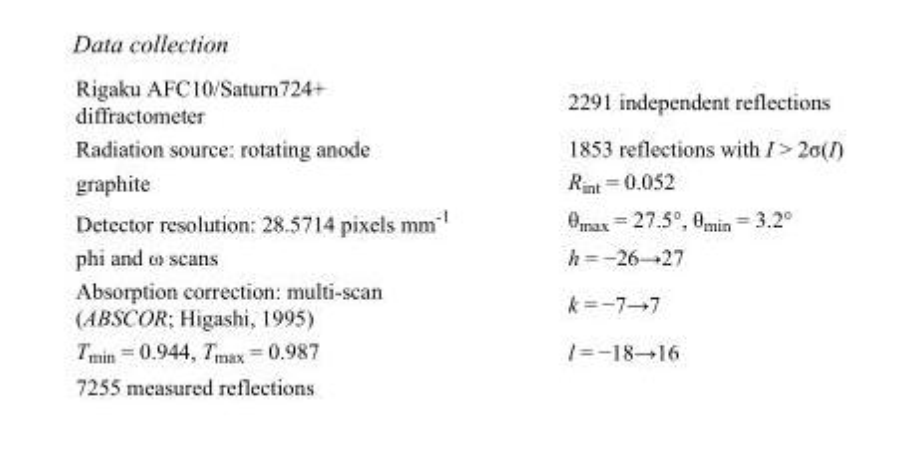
<table><tbody><tr><td>Rigaku AFC10/Saturn724+ diffractometer</td><td>2291 independent reflections</td></tr><tr><td>Radiation source: rotating anode</td><td>1853 reflections with I &gt; 2σ(I)</td></tr><tr><td>graphite</td><td>R<sub>int</sub> = 0.052</td></tr><tr><td>Detector resolution: 28.5714 pixels mm<sup>-1</sup></td><td>θ<sub>max</sub> = 27.5°, θ<sub>min</sub> = 3.2°</td></tr><tr><td>phi and ω scans</td><td>h = −26→27</td></tr><tr><td>Absorption correction: multi-scan (ABSCOR; Higashi, 1995)</td><td>k = −7→7</td></tr><tr><td>T<sub>min</sub> = 0.944, T<sub>max</sub> = 0.987</td><td>l = −18→16</td></tr><tr><td>7255 measured reflections</td><td></td></tr></tbody></table>